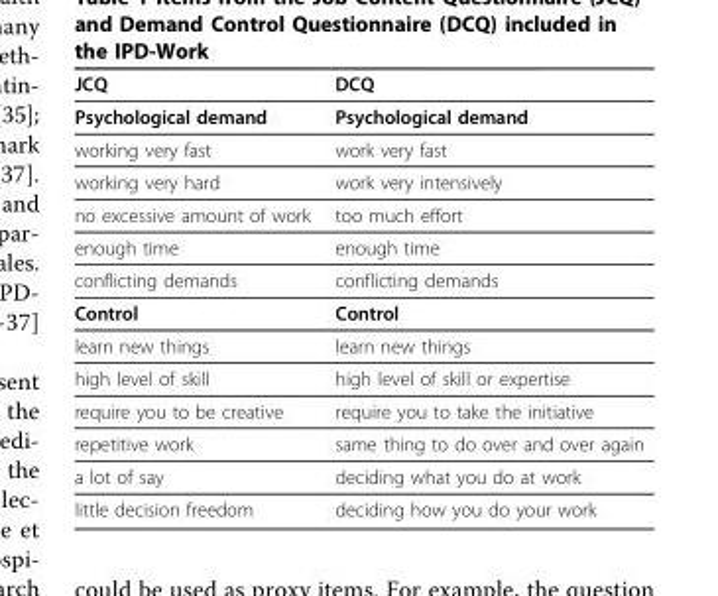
<table><thead><tr><td>JCQ</td><td>DCQ</td></tr></thead><tbody><tr><td>Psychological demand</td><td>Psychological demand</td></tr><tr><td>working very fast</td><td>work very fast</td></tr><tr><td>working very hard</td><td>work very intensively</td></tr><tr><td>no excessive amount of work</td><td>too much effort</td></tr><tr><td>enough time</td><td>enough time</td></tr><tr><td>conflicting demands</td><td>conflicting demands</td></tr><tr><td>Control</td><td>Control</td></tr><tr><td>learn new things</td><td>learn new things</td></tr><tr><td>high level of skill</td><td>high level of skill or expertise</td></tr><tr><td>require you to be creative</td><td>require you to take the initiative</td></tr><tr><td>repetitive work</td><td>same thing to do over and over again</td></tr><tr><td>a lot of say</td><td>deciding what you do at work</td></tr><tr><td>little decision freedom</td><td>deciding how you do your work</td></tr></tbody></table>